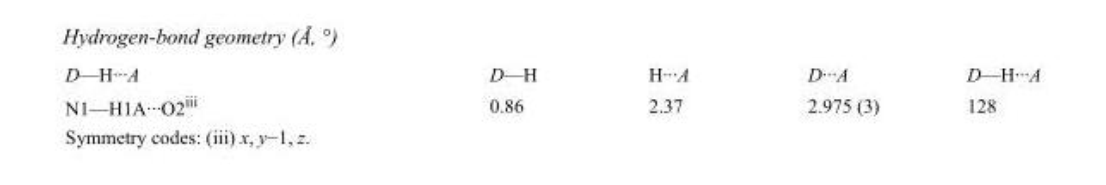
<table><tbody><tr><td>D—H···A</td><td>D—H</td><td>H···A</td><td>D···A</td><td>D—H···A</td></tr><tr><td>N1—H1A···O2<sup>iii</sup></td><td>0.86</td><td>2.37</td><td>2.975 (3)</td><td>128</td></tr></tbody></table>